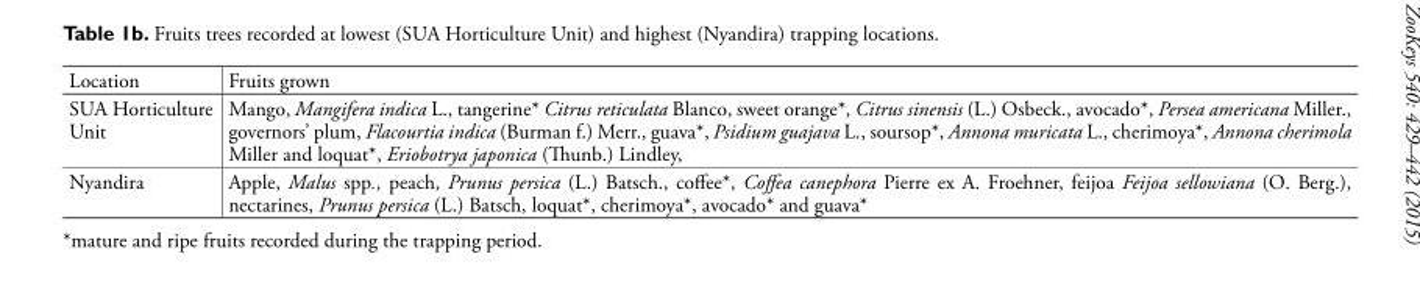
<table><tbody><tr><td>Location</td><td>Fruits grown</td></tr><tr><td>SUA Horticulture Unit</td><td>Mango, Mangifera indica L., tangerine* Citrus reticulata Blanco, sweet orange*, Citrus sinensis (L.) Osbeck., avocado*, Persea americana Miller., governors’ plum, Flacourtia indica (Burman f.) Merr., guava*, Psidium guajava L., soursop*, Annona muricata L., cherimoya*, Annona cherimola Miller and loquat*, Eriobotrya japonica (Thunb.) Lindley,</td></tr><tr><td>Nyandira</td><td>Apple, Malus spp., peach, Prunus persica (L.) Batsch., coffee*, Coffea canephora Pierre ex A. Froehner, feijoa Feijoa sellowiana (O. Berg.), nectarines, Prunus persica (L.) Batsch, loquat*, cherimoya*, avocado* and guava*</td></tr></tbody></table>